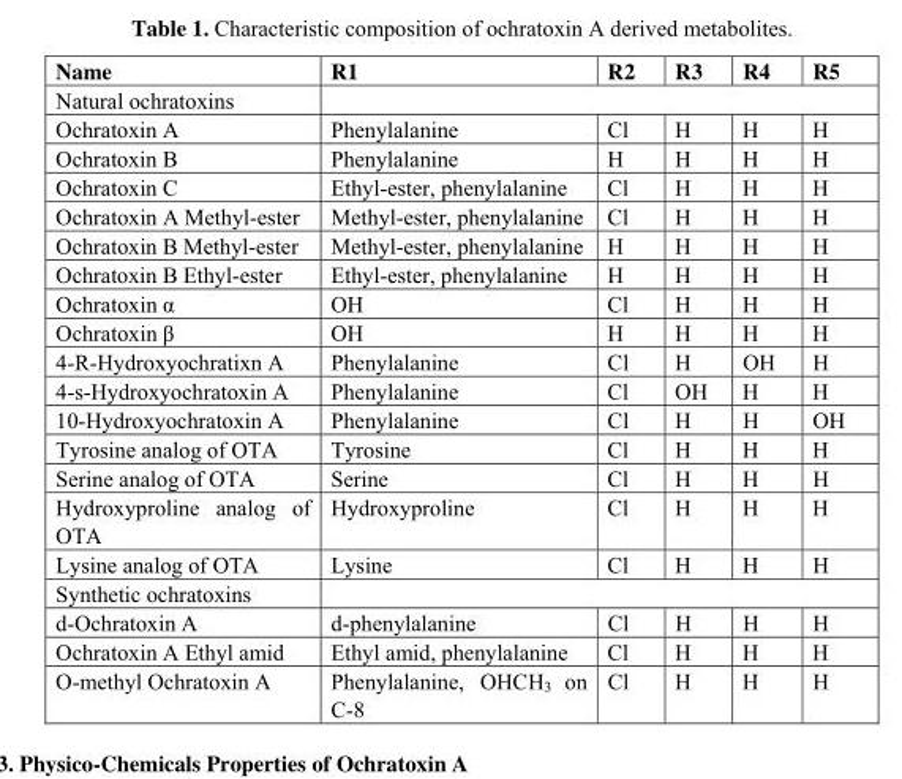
<table><thead><tr><td rowspan="2">Name Natural ochratoxins</td><td rowspan="2">R1</td><td rowspan="2">R2</td><td rowspan="2">R3</td><td rowspan="2">R4</td><td rowspan="2">R5</td></tr><tr></tr></thead><tbody><tr><td>Ochratoxin A</td><td>Phenylalanine</td><td>Cl</td><td>H</td><td>H</td><td>H</td></tr><tr><td>Ochratoxin B</td><td>Phenylalanine</td><td>H</td><td>H</td><td>H</td><td>H</td></tr><tr><td>Ochratoxin C</td><td>Ethyl-ester, phenylalanine</td><td>Cl</td><td>H</td><td>H</td><td>H</td></tr><tr><td>Ochratoxin A Methyl-ester</td><td>Methyl-ester, phenylalanine</td><td>Cl</td><td>H</td><td>H</td><td>H</td></tr><tr><td>Ochratoxin B Methyl-ester</td><td>Methyl-ester, phenylalanine</td><td>H</td><td>H</td><td>H</td><td>H</td></tr><tr><td>Ochratoxin B Ethyl-ester</td><td>Ethyl-ester, phenylalanine</td><td>H</td><td>H</td><td>H</td><td>H</td></tr><tr><td>Ochratoxin α</td><td>OH</td><td>Cl</td><td>H</td><td>H</td><td>H</td></tr><tr><td>Ochratoxin β</td><td>OH</td><td>H</td><td>H</td><td>H</td><td>H</td></tr><tr><td>4-R-Hydroxyochratixn A</td><td>Phenylalanine</td><td>Cl</td><td>H</td><td>OH</td><td>H</td></tr><tr><td>4-s-Hydroxyochratoxin A</td><td>Phenylalanine</td><td>Cl</td><td>OH</td><td>H</td><td>H</td></tr><tr><td>10-Hydroxyochratoxin A</td><td>Phenylalanine</td><td>Cl</td><td>H</td><td>H</td><td>OH</td></tr><tr><td>Tyrosine analog of OTA</td><td>Tyrosine</td><td>Cl</td><td>H</td><td>H</td><td>H</td></tr><tr><td>Serine analog of OTA</td><td>Serine</td><td>Cl</td><td>H</td><td>H</td><td>H</td></tr><tr><td>Hydroxyproline analog of OTA</td><td>Hydroxyproline</td><td>Cl</td><td>H</td><td>H</td><td>H</td></tr><tr><td>Lysine analog of OTA</td><td>Lysine</td><td>Cl</td><td>H</td><td>H</td><td>H</td></tr><tr><td colspan="6">Synthetic ochratoxins</td></tr><tr><td>d-Ochratoxin A</td><td>d-phenylalanine</td><td>Cl</td><td>H</td><td>H</td><td>H</td></tr><tr><td>Ochratoxin A Ethyl amid</td><td>Ethyl amid, phenylalanine</td><td>Cl</td><td>H</td><td>H</td><td>H</td></tr><tr><td>O-methyl Ochratoxin A</td><td>Phenylalanine, OHCH<sub>3</sub> on C-8</td><td>Cl</td><td>H</td><td>H</td><td>H</td></tr></tbody></table>